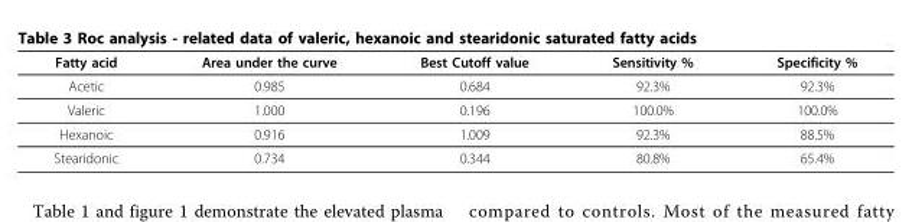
<table><thead><tr><td>Fatty acid</td><td>Area under the curve</td><td>Best Cutoff value</td><td>Sensitivity %</td><td>Specificity %</td></tr></thead><tbody><tr><td>Acetic</td><td>0.985</td><td>0.684</td><td>92.3%</td><td>92.3%</td></tr><tr><td>Valeric</td><td>1.000</td><td>0.196</td><td>100.0%</td><td>100.0%</td></tr><tr><td>Hexanoic</td><td>0.916</td><td>1.009</td><td>92.3%</td><td>88.5%</td></tr><tr><td>Stearidonic</td><td>0.734</td><td>0.344</td><td>80.8%</td><td>65.4%</td></tr></tbody></table>